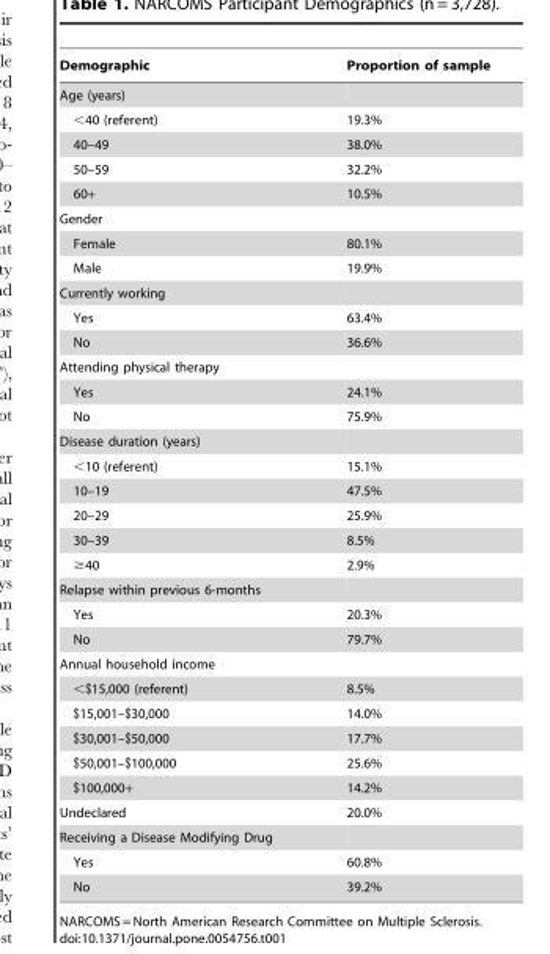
<table><thead><tr><td>Demographic</td><td>Proportion of sample</td></tr></thead><tbody><tr><td colspan="2">Age (years)</td></tr><tr><td>&lt;40 (referent)</td><td>19.3%</td></tr><tr><td>40–49</td><td>38.0%</td></tr><tr><td>50–59</td><td>32.2%</td></tr><tr><td>60+</td><td>10.5%</td></tr><tr><td colspan="2">Gender</td></tr><tr><td>Female</td><td>80.1%</td></tr><tr><td>Male</td><td>19.9%</td></tr><tr><td colspan="2">Currently working</td></tr><tr><td>Yes</td><td>63.4%</td></tr><tr><td>No</td><td>36.6%</td></tr><tr><td colspan="2">Attending physical therapy</td></tr><tr><td>Yes</td><td>24.1%</td></tr><tr><td>No</td><td>75.9%</td></tr><tr><td colspan="2">Disease duration (years)</td></tr><tr><td>&lt;10 (referent)</td><td>15.1%</td></tr><tr><td>10–19</td><td>47.5%</td></tr><tr><td>20–29</td><td>25.9%</td></tr><tr><td>30–39</td><td>8.5%</td></tr><tr><td>≥40</td><td>2.9%</td></tr><tr><td colspan="2">Relapse within previous 6-months</td></tr><tr><td>Yes</td><td>20.3%</td></tr><tr><td>No</td><td>79.7%</td></tr><tr><td colspan="2">Annual household income</td></tr><tr><td>&lt;$15,000 (referent)</td><td>8.5%</td></tr><tr><td>$15,001–$30,000</td><td>14.0%</td></tr><tr><td>$30,001–$50,000</td><td>17.7%</td></tr><tr><td>$50,001–$100,000</td><td>25.6%</td></tr><tr><td>$100,000+</td><td>14.2%</td></tr><tr><td>Undeclared</td><td>20.0%</td></tr><tr><td colspan="2">Receiving a Disease Modifying Drug</td></tr><tr><td>Yes</td><td>60.8%</td></tr><tr><td>No</td><td>39.2%</td></tr></tbody></table>